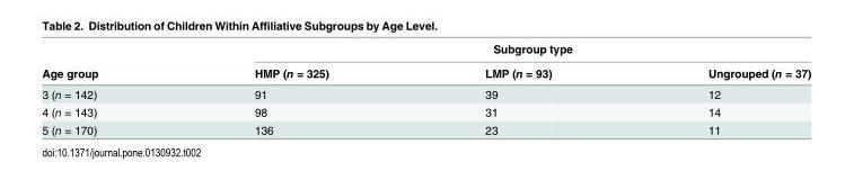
<table><thead><tr><td rowspan="2">Age group</td><td colspan="3">Subgroup type</td></tr><tr><td>HMP (n = 325)</td><td>LMP (n = 93)</td><td>Ungrouped (n = 37)</td></tr></thead><tbody><tr><td>3 (n = 142)</td><td>91</td><td>39</td><td>12</td></tr><tr><td>4 (n = 143)</td><td>98</td><td>31</td><td>14</td></tr><tr><td>5 (n = 170)</td><td>136</td><td>23</td><td>11</td></tr></tbody></table>